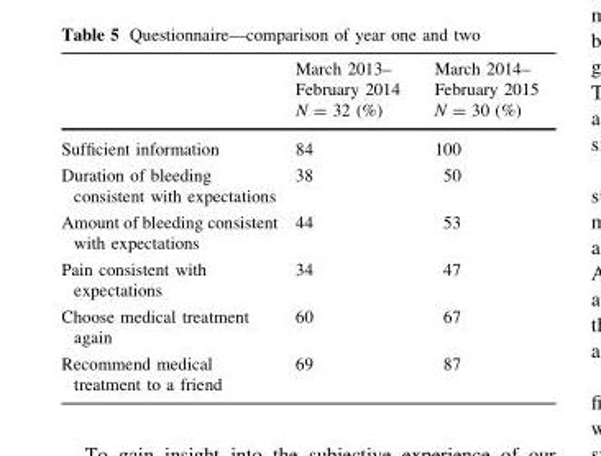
<table><thead><tr><td></td><td>March 2013– February 2014 N = 32 (%)</td><td>March 2014– February 2015 N = 30 (%)</td></tr></thead><tbody><tr><td>Sufficient information</td><td>84</td><td>100</td></tr><tr><td>Duration of bleeding consistent with expectations</td><td>38</td><td>50</td></tr><tr><td>Amount of bleeding consistent with expectations</td><td>44</td><td>53</td></tr><tr><td>Pain consistent with expectations</td><td>34</td><td>47</td></tr><tr><td>Choose medical treatment again</td><td>60</td><td>67</td></tr><tr><td>Recommend medical treatment to a friend</td><td>69</td><td>87</td></tr></tbody></table>